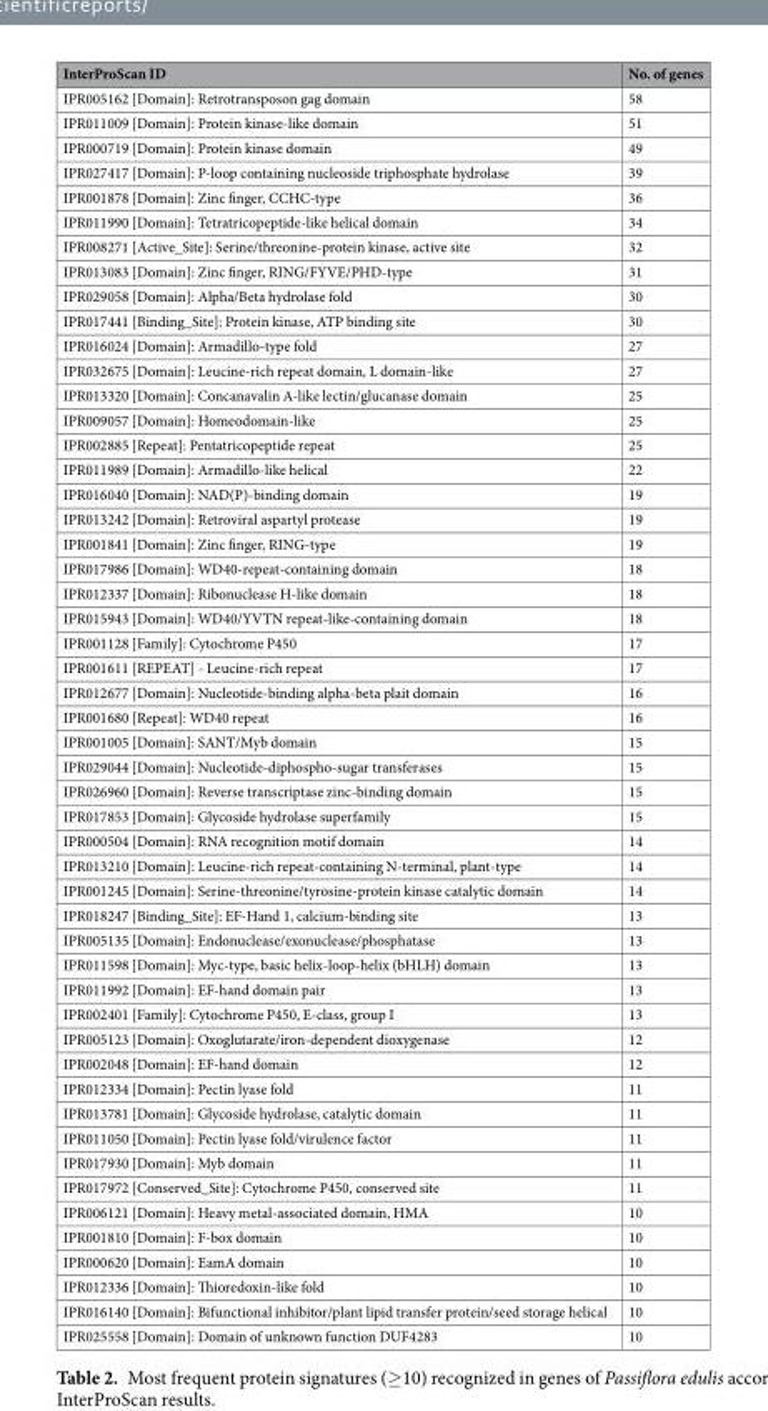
<table><thead><tr><td>InterProScan ID</td><td>No. of genes</td></tr></thead><tbody><tr><td>IPR005162 [Domain]: Retrotransposon gag domain</td><td>58</td></tr><tr><td>IPR011009 [Domain]: Protein kinase-like domain</td><td>51</td></tr><tr><td>IPR000719 [Domain]: Protein kinase domain</td><td>49</td></tr><tr><td>IPR027417 [Domain]: P-loop containing nucleoside triphosphate hydrolase</td><td>39</td></tr><tr><td>IPR001878 [Domain]: Zinc finger, CCHC-type</td><td>36</td></tr><tr><td>IPR011990 [Domain]: Tetratricopeptide-like helical domain</td><td>34</td></tr><tr><td>IPR008271 [Active_Site]: Serine/threonine-protein kinase, active site</td><td>32</td></tr><tr><td>IPR013083 [Domain]: Zinc finger, RING/FYVE/PHD-type</td><td>31</td></tr><tr><td>IPR029058 [Domain]: Alpha/Beta hydrolase fold</td><td>30</td></tr><tr><td>IPR017441 [Binding_Site]: Protein kinase, ATP binding site</td><td>30</td></tr><tr><td>IPR016024 [Domain]: Armadillo-type fold</td><td>27</td></tr><tr><td>IPR032675 [Domain]: Leucine-rich repeat domain, L domain-like</td><td>27</td></tr><tr><td>IPR013320 [Domain]: Concanavalin A-like lectin/glucanase domain</td><td>25</td></tr><tr><td>IPR009057 [Domain]: Homeodomain-like</td><td>25</td></tr><tr><td>IPR002885 [Repeat]: Pentatricopeptide repeat</td><td>25</td></tr><tr><td>IPR011989 [Domain]: Armadillo-like helical</td><td>22</td></tr><tr><td>IPR016040 [Domain]: NAD(P)-binding domain</td><td>19</td></tr><tr><td>IPR013242 [Domain]: Retroviral aspartyl protease</td><td>19</td></tr><tr><td>IPR001841 [Domain]: Zinc finger, RING-type</td><td>19</td></tr><tr><td>IPR017986 [Domain]: WD40-repeat-containing domain</td><td>18</td></tr><tr><td>IPR012337 [Domain]: Ribonuclease H-like domain</td><td>18</td></tr><tr><td>IPR015943 [Domain]: WD40/YVTN repeat-like-containing domain</td><td>18</td></tr><tr><td>IPR001128 [Family]: Cytochrome P450</td><td>17</td></tr><tr><td>IPR001611 [REPEAT] - Leucine-rich repeat</td><td>17</td></tr><tr><td>IPR012677 [Domain]: Nucleotide-binding alpha-beta plait domain</td><td>16</td></tr><tr><td>IPR001680 [Repeat]: WD40 repeat</td><td>16</td></tr><tr><td>IPR001005 [Domain]: SANT/Myb domain</td><td>15</td></tr><tr><td>IPR029044 [Domain]: Nucleotide-diphospho-sugar transferases</td><td>15</td></tr><tr><td>IPR026960 [Domain]: Reverse transcriptase zinc-binding domain</td><td>15</td></tr><tr><td>IPR017853 [Domain]: Glycoside hydrolase superfamily</td><td>15</td></tr><tr><td>IPR000504 [Domain]: RNA recognition motif domain</td><td>14</td></tr><tr><td>IPR013210 [Domain]: Leucine-rich repeat-containing N-terminal, plant-type</td><td>14</td></tr><tr><td>IPR001245 [Domain]: Serine-threonine/tyrosine-protein kinase catalytic domain</td><td>14</td></tr><tr><td>IPR018247 [Binding_Site]: EF-Hand 1, calcium-binding site</td><td>13</td></tr><tr><td>IPR005135 [Domain]: Endonuclease/exonuclease/phosphatase</td><td>13</td></tr><tr><td>IPR011598 [Domain]: Myc-type, basic helix-loop-helix (bHLH) domain</td><td>13</td></tr><tr><td>IPR011992 [Domain]: EF-hand domain pair</td><td>13</td></tr><tr><td>IPR002401 [Family]: Cytochrome P450, E-class, group I</td><td>13</td></tr><tr><td>IPR005123 [Domain]: Oxoglutarate/iron-dependent dioxygenase</td><td>12</td></tr><tr><td>IPR002048 [Domain]: EF-hand domain</td><td>12</td></tr><tr><td>IPR012334 [Domain]: Pectin lyase fold</td><td>11</td></tr><tr><td>IPR013781 [Domain]: Glycoside hydrolase, catalytic domain</td><td>11</td></tr><tr><td>IPR011050 [Domain]: Pectin lyase fold/virulence factor</td><td>11</td></tr><tr><td>IPR017930 [Domain]: Myb domain</td><td>11</td></tr><tr><td>IPR017972 [Conserved_Site]: Cytochrome P450, conserved site</td><td>11</td></tr><tr><td>IPR006121 [Domain]: Heavy metal-associated domain, HMA</td><td>10</td></tr><tr><td>IPR001810 [Domain]: F-box domain</td><td>10</td></tr><tr><td>IPR000620 [Domain]: EamA domain</td><td>10</td></tr><tr><td>IPR012336 [Domain]: Thioredoxin-like fold</td><td>10</td></tr><tr><td>IPR016140 [Domain]: Bifunctional inhibitor/plant lipid transfer protein/seed storage helical</td><td>10</td></tr><tr><td>IPR025558 [Domain]: Domain of unknown function DUF4283</td><td>10</td></tr></tbody></table>